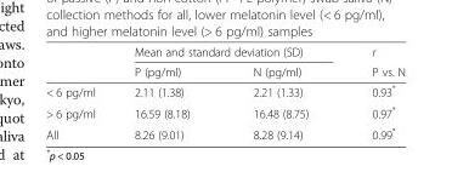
<table><thead><tr><td rowspan="2"></td><td colspan="2">Mean and standard deviation (SD)</td><td rowspan="2">r P vs. N</td></tr><tr><td>P (pg/ml)</td><td>N (pg/ml)</td></tr></thead><tbody><tr><td>&lt; 6 pg/ml</td><td>2.11 (1.38)</td><td>2.21 (1.33)</td><td>0.93*</td></tr><tr><td>&gt; 6 pg/ml</td><td>16.59 (8.18)</td><td>16.48 (8.75)</td><td>0.97*</td></tr><tr><td>All</td><td>8.26 (9.01)</td><td>8.28 (9.14)</td><td>0.99*</td></tr></tbody></table>